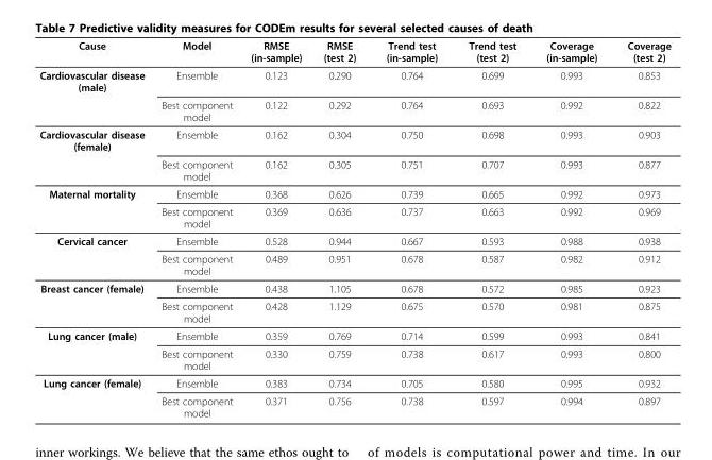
<table><thead><tr><td>Cause</td><td>Model</td><td>RMSE (in-sample)</td><td>RMSE (test 2)</td><td>Trend test (in-sample)</td><td>Trend test (test 2)</td><td>Coverage (in-sample)</td><td>Coverage (test 2)</td></tr></thead><tbody><tr><td rowspan="2">Cardiovascular disease (male)</td><td>Ensemble</td><td>0.123</td><td>0.290</td><td>0.764</td><td>0.699</td><td>0.993</td><td>0.853</td></tr><tr><td>Best component model</td><td>0.122</td><td>0.292</td><td>0.764</td><td>0.693</td><td>0.992</td><td>0.822</td></tr><tr><td rowspan="2">Cardiovascular disease (female)</td><td>Ensemble</td><td>0.162</td><td>0.304</td><td>0.750</td><td>0.698</td><td>0.993</td><td>0.903</td></tr><tr><td>Best component model</td><td>0.162</td><td>0.305</td><td>0.751</td><td>0.707</td><td>0.993</td><td>0.877</td></tr><tr><td rowspan="2">Maternal mortality</td><td>Ensemble</td><td>0.368</td><td>0.626</td><td>0.739</td><td>0.665</td><td>0.992</td><td>0.973</td></tr><tr><td>Best component model</td><td>0.369</td><td>0.636</td><td>0.737</td><td>0.663</td><td>0.992</td><td>0.969</td></tr><tr><td rowspan="2">Cervical cancer</td><td>Ensemble</td><td>0.528</td><td>0.944</td><td>0.667</td><td>0.593</td><td>0.988</td><td>0.938</td></tr><tr><td>Best component model</td><td>0.489</td><td>0.951</td><td>0.678</td><td>0.587</td><td>0.982</td><td>0.912</td></tr><tr><td rowspan="2">Breast cancer (female)</td><td>Ensemble</td><td>0.438</td><td>1.105</td><td>0.678</td><td>0.572</td><td>0.985</td><td>0.923</td></tr><tr><td>Best component model</td><td>0.428</td><td>1.129</td><td>0.675</td><td>0.570</td><td>0.981</td><td>0.875</td></tr><tr><td rowspan="2">Lung cancer (male)</td><td>Ensemble</td><td>0.359</td><td>0.769</td><td>0.714</td><td>0.599</td><td>0.993</td><td>0.841</td></tr><tr><td>Best component model</td><td>0.330</td><td>0.759</td><td>0.738</td><td>0.617</td><td>0.993</td><td>0.800</td></tr><tr><td rowspan="2">Lung cancer (female)</td><td>Ensemble</td><td>0.383</td><td>0.734</td><td>0.705</td><td>0.580</td><td>0.995</td><td>0.932</td></tr><tr><td>Best component model</td><td>0.371</td><td>0.756</td><td>0.738</td><td>0.597</td><td>0.994</td><td>0.897</td></tr></tbody></table>